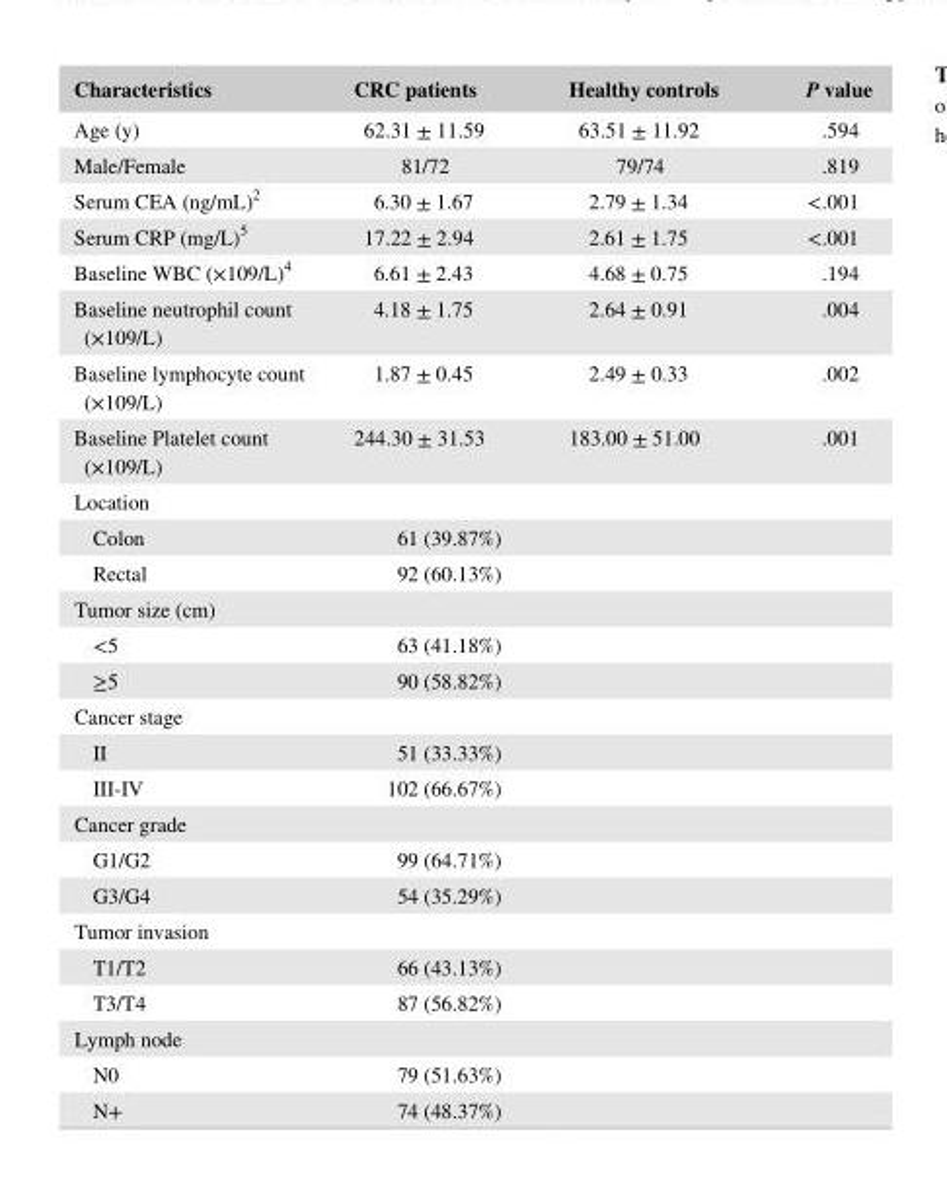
<table><thead><tr><td>Characteristics</td><td>CRC patients</td><td>Healthy controls</td><td>P value</td></tr></thead><tbody><tr><td>Age (y)</td><td>62.31 ± 11.59</td><td>63.51 ± 11.92</td><td>.594</td></tr><tr><td>Male/Female</td><td>81/72</td><td>79/74</td><td>.819</td></tr><tr><td>Serum CEA (ng/mL)<sup>2</sup></td><td>6.30 ± 1.67</td><td>2.79 ± 1.34</td><td>&lt;.001</td></tr><tr><td>Serum CRP (mg/L)<sup>5</sup></td><td>17.22 ± 2.94</td><td>2.61 ± 1.75</td><td>&lt;.001</td></tr><tr><td>Baseline WBC (×109/L)<sup>4</sup></td><td>6.61 ± 2.43</td><td>4.68 ± 0.75</td><td>.194</td></tr><tr><td>Baseline neutrophil count (×109/L)</td><td>4.18 ± 1.75</td><td>2.64 ± 0.91</td><td>.004</td></tr><tr><td>Baseline lymphocyte count (×109/L)</td><td>1.87 ± 0.45</td><td>2.49 ± 0.33</td><td>.002</td></tr><tr><td>Baseline Platelet count (×109/L)</td><td>244.30 ± 31.53</td><td>183.00 ± 51.00</td><td>.001</td></tr><tr><td colspan="4">Location</td></tr><tr><td>Colon</td><td>61 (39.87%)</td><td></td><td></td></tr><tr><td>Rectal</td><td>92 (60.13%)</td><td></td><td></td></tr><tr><td colspan="4">Tumor size (cm)</td></tr><tr><td>&lt;5</td><td>63 (41.18%)</td><td></td><td></td></tr><tr><td>≥5</td><td>90 (58.82%)</td><td></td><td></td></tr><tr><td colspan="4">Cancer stage</td></tr><tr><td>II</td><td>51 (33.33%)</td><td></td><td></td></tr><tr><td>III- IV</td><td>102 (66.67%)</td><td></td><td></td></tr><tr><td colspan="4">Cancer grade</td></tr><tr><td>G1/G2</td><td>99 (64.71%)</td><td></td><td></td></tr><tr><td>G3/G4</td><td>54 (35.29%)</td><td></td><td></td></tr><tr><td colspan="4">Tumor invasion</td></tr><tr><td>T1/T2</td><td>66 (43.13%)</td><td></td><td></td></tr><tr><td>T3/T4</td><td>87 (56.82%)</td><td></td><td></td></tr><tr><td colspan="4">Lymph node</td></tr><tr><td>N0</td><td>79 (51.63%)</td><td></td><td></td></tr><tr><td>N+</td><td>74 (48.37%)</td><td></td><td></td></tr></tbody></table>